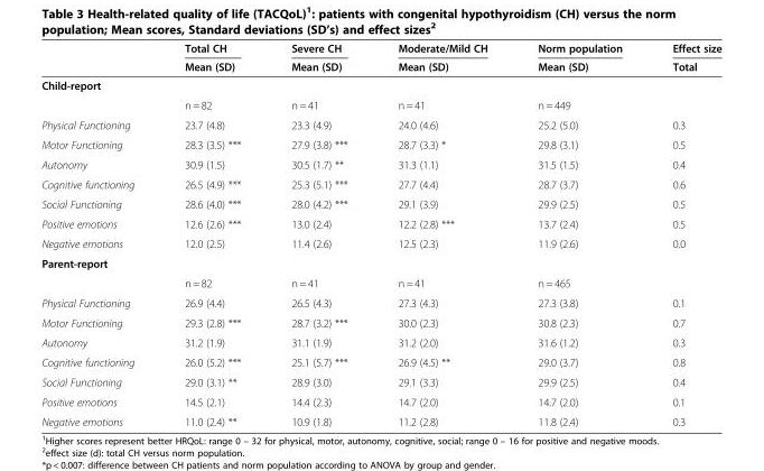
<table><thead><tr><td rowspan="2"></td><td rowspan="2">Total CH Mean (SD)</td><td rowspan="2">Severe CH Mean (SD)</td><td rowspan="2">Moderate/Mild CH Mean (SD)</td><td rowspan="2">Norm population Mean (SD)</td><td rowspan="2">Effect size Total</td></tr><tr></tr></thead><tbody><tr><td colspan="6">Child-report</td></tr><tr><td></td><td>n = 82</td><td>n = 41</td><td>n = 41</td><td>n = 449</td><td></td></tr><tr><td>Physical Functioning</td><td>23.7 (4.8)</td><td>23.3 (4.9)</td><td>24.0 (4.6)</td><td>25.2 (5.0)</td><td>0.3</td></tr><tr><td>Motor Functioning</td><td>28.3 (3.5) ***</td><td>27.9 (3.8) ***</td><td>28.7 (3.3) *</td><td>29.8 (3.1)</td><td>0.5</td></tr><tr><td>Autonomy</td><td>30.9 (1.5)</td><td>30.5 (1.7) **</td><td>31.3 (1.1)</td><td>31.5 (1.5)</td><td>0.4</td></tr><tr><td>Cognitive functioning</td><td>26.5 (4.9) ***</td><td>25.3 (5.1) ***</td><td>27.7 (4.4)</td><td>28.7 (3.7)</td><td>0.6</td></tr><tr><td>Social Functioning</td><td>28.6 (4.0) ***</td><td>28.0 (4.2) ***</td><td>29.1 (3.9)</td><td>29.9 (2.5)</td><td>0.5</td></tr><tr><td>Positive emotions</td><td>12.6 (2.6) ***</td><td>13.0 (2.4)</td><td>12.2 (2.8) ***</td><td>13.7 (2.4)</td><td>0.5</td></tr><tr><td>Negative emotions</td><td>12.0 (2.5)</td><td>11.4 (2.6)</td><td>12.5 (2.3)</td><td>11.9 (2.6)</td><td>0.0</td></tr><tr><td colspan="6">Parent-report</td></tr><tr><td></td><td>n = 82</td><td>n = 41</td><td>n = 41</td><td>n = 465</td><td></td></tr><tr><td>Physical Functioning</td><td>26.9 (4.4)</td><td>26.5 (4.3)</td><td>27.3 (4.3)</td><td>27.3 (3.8)</td><td>0.1</td></tr><tr><td>Motor Functioning</td><td>29.3 (2.8) ***</td><td>28.7 (3.2) ***</td><td>30.0 (2.3)</td><td>30.8 (2.3)</td><td>0.7</td></tr><tr><td>Autonomy</td><td>31.2 (1.9)</td><td>31.1 (1.9)</td><td>31.2 (2.0)</td><td>31.6 (1.2)</td><td>0.3</td></tr><tr><td>Cognitive functioning</td><td>26.0 (5.2) ***</td><td>25.1 (5.7) ***</td><td>26.9 (4.5) **</td><td>29.0 (3.7)</td><td>0.8</td></tr><tr><td>Social Functioning</td><td>29.0 (3.1) **</td><td>28.9 (3.0)</td><td>29.1 (3.3)</td><td>29.9 (2.5)</td><td>0.4</td></tr><tr><td>Positive emotions</td><td>14.5 (2.1)</td><td>14.4 (2.3)</td><td>14.7 (2.0)</td><td>14.7 (2.0)</td><td>0.1</td></tr><tr><td>Negative emotions</td><td>11.0 (2.4) **</td><td>10.9 (1.8)</td><td>11.2 (2.8)</td><td>11.8 (2.4)</td><td>0.3</td></tr></tbody></table>